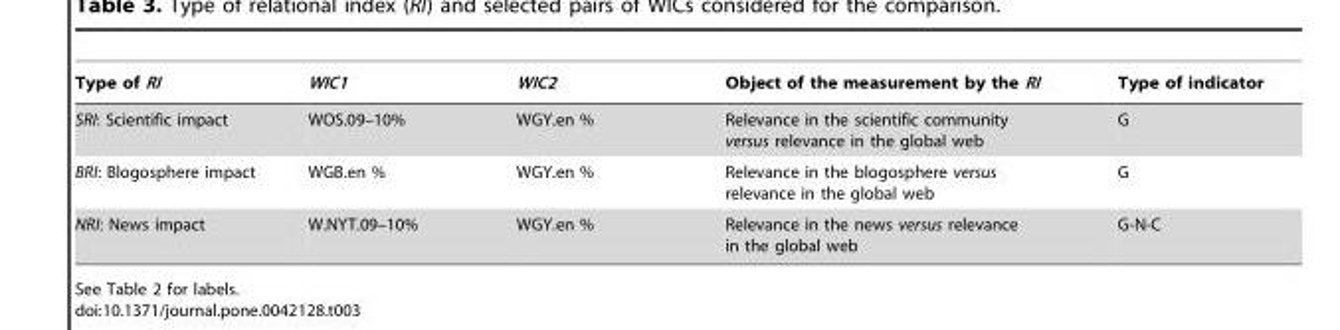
<table><thead><tr><td>Type of RI</td><td>WIC1</td><td>WIC2</td><td>Object of the measurement by the RI</td><td>Type of indicator</td></tr></thead><tbody><tr><td>SRI: Scientific impact</td><td>WOS.09–10%</td><td>WGY.en %</td><td>Relevance in the scientific community versus relevance in the global web</td><td>G</td></tr><tr><td>BRI: Blogosphere impact</td><td>WGB.en %</td><td>WGY.en %</td><td>Relevance in the blogosphere versus relevance in the global web</td><td>G</td></tr><tr><td>NRI: News impact</td><td>W.NYT.09–10%</td><td>WGY.en %</td><td>Relevance in the news versus relevance in the global web</td><td>G-N-C</td></tr></tbody></table>